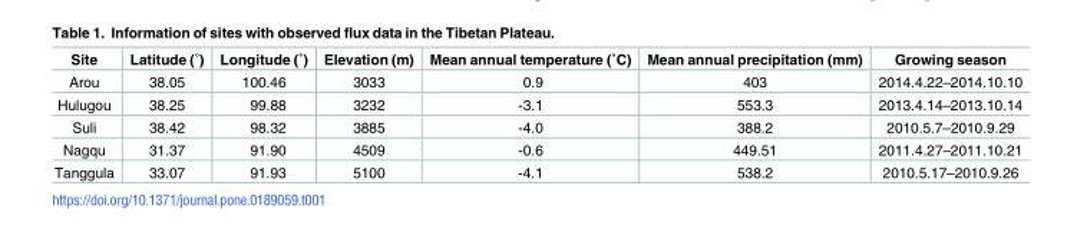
<table><thead><tr><td>Site</td><td>Latitude (˚)</td><td>Longitude (˚)</td><td>Elevation (m)</td><td>Mean annual temperature (˚C)</td><td>Mean annual precipitation (mm)</td><td>Growing season</td></tr></thead><tbody><tr><td>Arou</td><td>38.05</td><td>100.46</td><td>3033</td><td>0.9</td><td>403</td><td>2014.4.22–2014.10.10</td></tr><tr><td>Hulugou</td><td>38.25</td><td>99.88</td><td>3232</td><td>-3.1</td><td>553.3</td><td>2013.4.14–2013.10.14</td></tr><tr><td>Suli</td><td>38.42</td><td>98.32</td><td>3885</td><td>-4.0</td><td>388.2</td><td>2010.5.7–2010.9.29</td></tr><tr><td>Nagqu</td><td>31.37</td><td>91.90</td><td>4509</td><td>-0.6</td><td>449.51</td><td>2011.4.27–2011.10.21</td></tr><tr><td>Tanggula</td><td>33.07</td><td>91.93</td><td>5100</td><td>-4.1</td><td>538.2</td><td>2010.5.17–2010.9.26</td></tr></tbody></table>